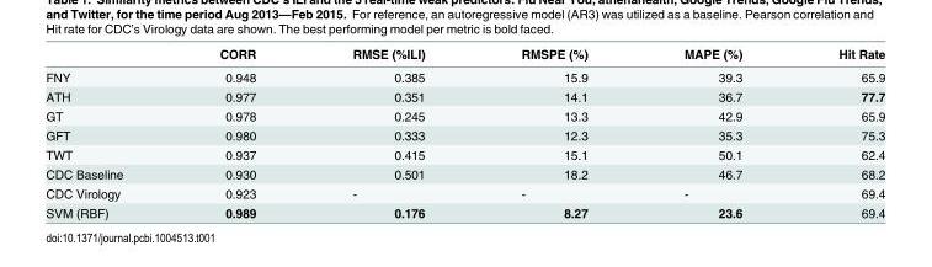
<table><thead><tr><td></td><td>CORR</td><td>RMSE (%ILI)</td><td>RMSPE (%)</td><td>MAPE (%)</td><td>Hit Rate</td></tr></thead><tbody><tr><td>FNY</td><td>0.948</td><td>0.385</td><td>15.9</td><td>39.3</td><td>65.9</td></tr><tr><td>ATH</td><td>0.977</td><td>0.351</td><td>14.1</td><td>36.7</td><td>77.7</td></tr><tr><td>GT</td><td>0.978</td><td>0.245</td><td>13.3</td><td>42.9</td><td>65.9</td></tr><tr><td>GFT</td><td>0.980</td><td>0.333</td><td>12.3</td><td>35.3</td><td>75.3</td></tr><tr><td>TWT</td><td>0.937</td><td>0.415</td><td>15.1</td><td>50.1</td><td>62.4</td></tr><tr><td>CDC Baseline</td><td>0.930</td><td>0.501</td><td>18.2</td><td>46.7</td><td>68.2</td></tr><tr><td>CDC Virology</td><td>0.923</td><td>-</td><td>-</td><td>-</td><td>69.4</td></tr><tr><td>SVM (RBF)</td><td>0.989</td><td>0.176</td><td>8.27</td><td>23.6</td><td>69.4</td></tr></tbody></table>